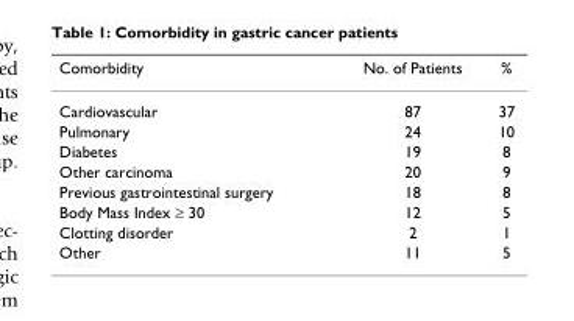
<table><thead><tr><td>Comorbidity</td><td>No. of Patients</td><td>%</td></tr></thead><tbody><tr><td>Cardiovascular</td><td>87</td><td>37</td></tr><tr><td>Pulmonary</td><td>24</td><td>10</td></tr><tr><td>Diabetes</td><td>19</td><td>8</td></tr><tr><td>Other carcinoma</td><td>20</td><td>9</td></tr><tr><td>Previous gastrointestinal surgery</td><td>18</td><td>8</td></tr><tr><td>Body Mass Index ≥ 30</td><td>12</td><td>5</td></tr><tr><td>Clotting disorder</td><td>2</td><td>1</td></tr><tr><td>Other</td><td>11</td><td>5</td></tr></tbody></table>